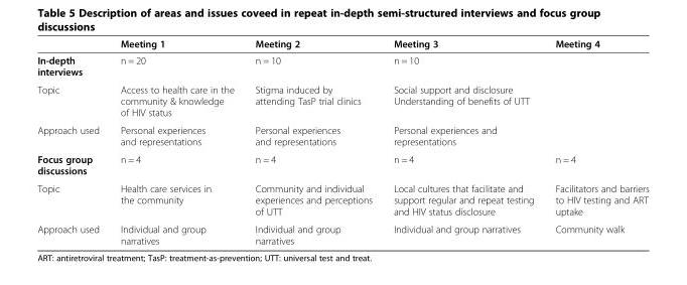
<table><thead><tr><td></td><td>Meeting 1</td><td>Meeting 2</td><td>Meeting 3</td><td>Meeting 4</td></tr></thead><tbody><tr><td>In-depth interviews</td><td>n = 20</td><td>n = 10</td><td>n = 10</td><td></td></tr><tr><td>Topic</td><td>Access to health care in the community &amp; knowledge of HIV status</td><td>Stigma induced by attending TasP trial clinics</td><td>Social support and disclosure Understanding of benefits of UTT</td><td></td></tr><tr><td>Approach used</td><td>Personal experiences and representations</td><td>Personal experiences and representations</td><td>Personal experiences and representations</td><td></td></tr><tr><td>Focus group discussions</td><td>n = 4</td><td>n = 4</td><td>n = 4</td><td>n = 4</td></tr><tr><td>Topic</td><td>Health care services in the community</td><td>Community and individual experiences and perceptions of UTT</td><td>Local cultures that facilitate and support regular and repeat testing and HIV status disclosure</td><td>Facilitators and barriers to HIV testing and ART uptake</td></tr><tr><td>Approach used</td><td>Individual and group narratives</td><td>Individual and group narratives</td><td>Individual and group narratives</td><td>Community walk</td></tr></tbody></table>